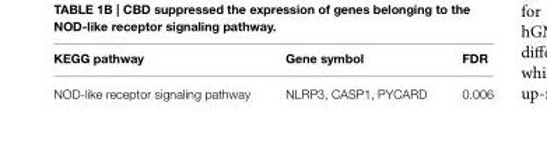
<table><thead><tr><td>KEGG pathway</td><td>Gene symbol</td><td>FDR</td></tr></thead><tbody><tr><td>NOD-like receptor signaling pathway</td><td>NLRP3, CASP1, PYCARD</td><td>0.006</td></tr></tbody></table>